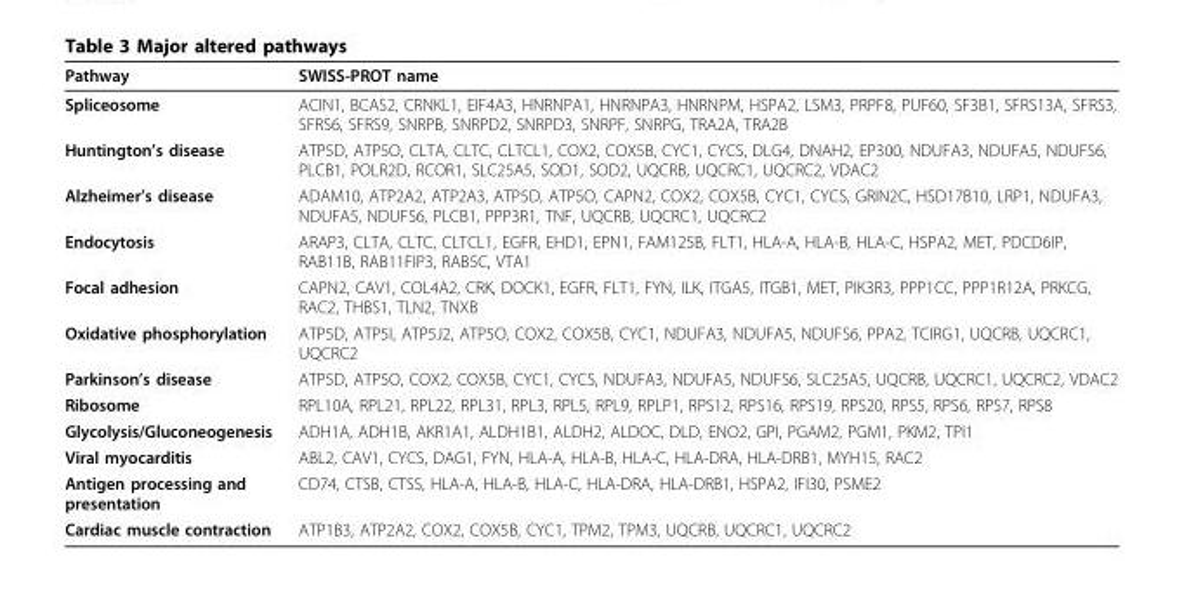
<table><thead><tr><td>Pathway</td><td>SWISS-PROT name</td></tr></thead><tbody><tr><td>Spliceosome</td><td>ACIN1, BCAS2, CRNKL1, EIF4A3, HNRNPA1, HNRNPA3, HNRNPM, HSPA2, LSM3, PRPF8, PUF60, SF3B1, SFRS13A, SFRS3, SFRS6, SFRS9, SNRPB, SNRPD2, SNRPD3, SNRPF, SNRPG, TRA2A, TRA2B</td></tr><tr><td>Huntington’s disease</td><td>ATP5D, ATP5O, CLTA, CLTC, CLTCL1, COX2, COX5B, CYC1, CYCS, DLG4, DNAH2, EP300, NDUFA3, NDUFA5, NDUFS6, PLCB1, POLR2D, RCOR1, SLC25A5, SOD1, SOD2, UQCRB, UQCRC1, UQCRC2, VDAC2</td></tr><tr><td>Alzheimer’s disease</td><td>ADAM10, ATP2A2, ATP2A3, ATP5D, ATP5O, CAPN2, COX2, COX5B, CYC1, CYCS, GRIN2C, HSD17B10, LRP1, NDUFA3, NDUFA5, NDUFS6, PLCB1, PPP3R1, TNF, UQCRB, UQCRC1, UQCRC2</td></tr><tr><td>Endocytosis</td><td>ARAP3, CLTA, CLTC, CLTCL1, EGFR, EHD1, EPN1, FAM125B, FLT1, HLA-A, HLA-B, HLA-C, HSPA2, MET, PDCD6IP, RAB11B, RAB11FIP3, RAB5C, VTA1</td></tr><tr><td>Focal adhesion</td><td>CAPN2, CAV1, COL4A2, CRK, DOCK1, EGFR, FLT1, FYN, ILK, ITGA5, ITGB1, MET, PIK3R3, PPP1CC, PPP1R12A, PRKCG, RAC2, THBS1, TLN2, TNXB</td></tr><tr><td>Oxidative phosphorylation</td><td>ATP5D, ATP5I, ATP5J2, ATP5O, COX2, COX5B, CYC1, NDUFA3, NDUFA5, NDUFS6, PPA2, TCIRG1, UQCRB, UQCRC1, UQCRC2</td></tr><tr><td>Parkinson’s disease</td><td>ATP5D, ATP5O, COX2, COX5B, CYC1, CYCS, NDUFA3, NDUFA5, NDUFS6, SLC25A5, UQCRB, UQCRC1, UQCRC2, VDAC2</td></tr><tr><td>Ribosome</td><td>RPL10A, RPL21, RPL22, RPL31, RPL3, RPL5, RPL9, RPLP1, RPS12, RPS16, RPS19, RPS20, RPS5, RPS6, RPS7, RPS8</td></tr><tr><td>Glycolysis/Gluconeogenesis</td><td>ADH1A, ADH1B, AKR1A1, ALDH1B1, ALDH2, ALDOC, DLD, ENO2, GPI, PGAM2, PGM1, PKM2, TPI1</td></tr><tr><td>Viral myocarditis</td><td>ABL2, CAV1, CYCS, DAG1, FYN, HLA-A, HLA-B, HLA-C, HLA-DRA, HLA-DRB1, MYH15, RAC2</td></tr><tr><td>Antigen processing and presentation</td><td>CD74, CTSB, CTSS, HLA-A, HLA-B, HLA-C, HLA-DRA, HLA-DRB1, HSPA2, IFI30, PSME2</td></tr><tr><td>Cardiac muscle contraction</td><td>ATP1B3, ATP2A2, COX2, COX5B, CYC1, TPM2, TPM3, UQCRB, UQCRC1, UQCRC2</td></tr></tbody></table>